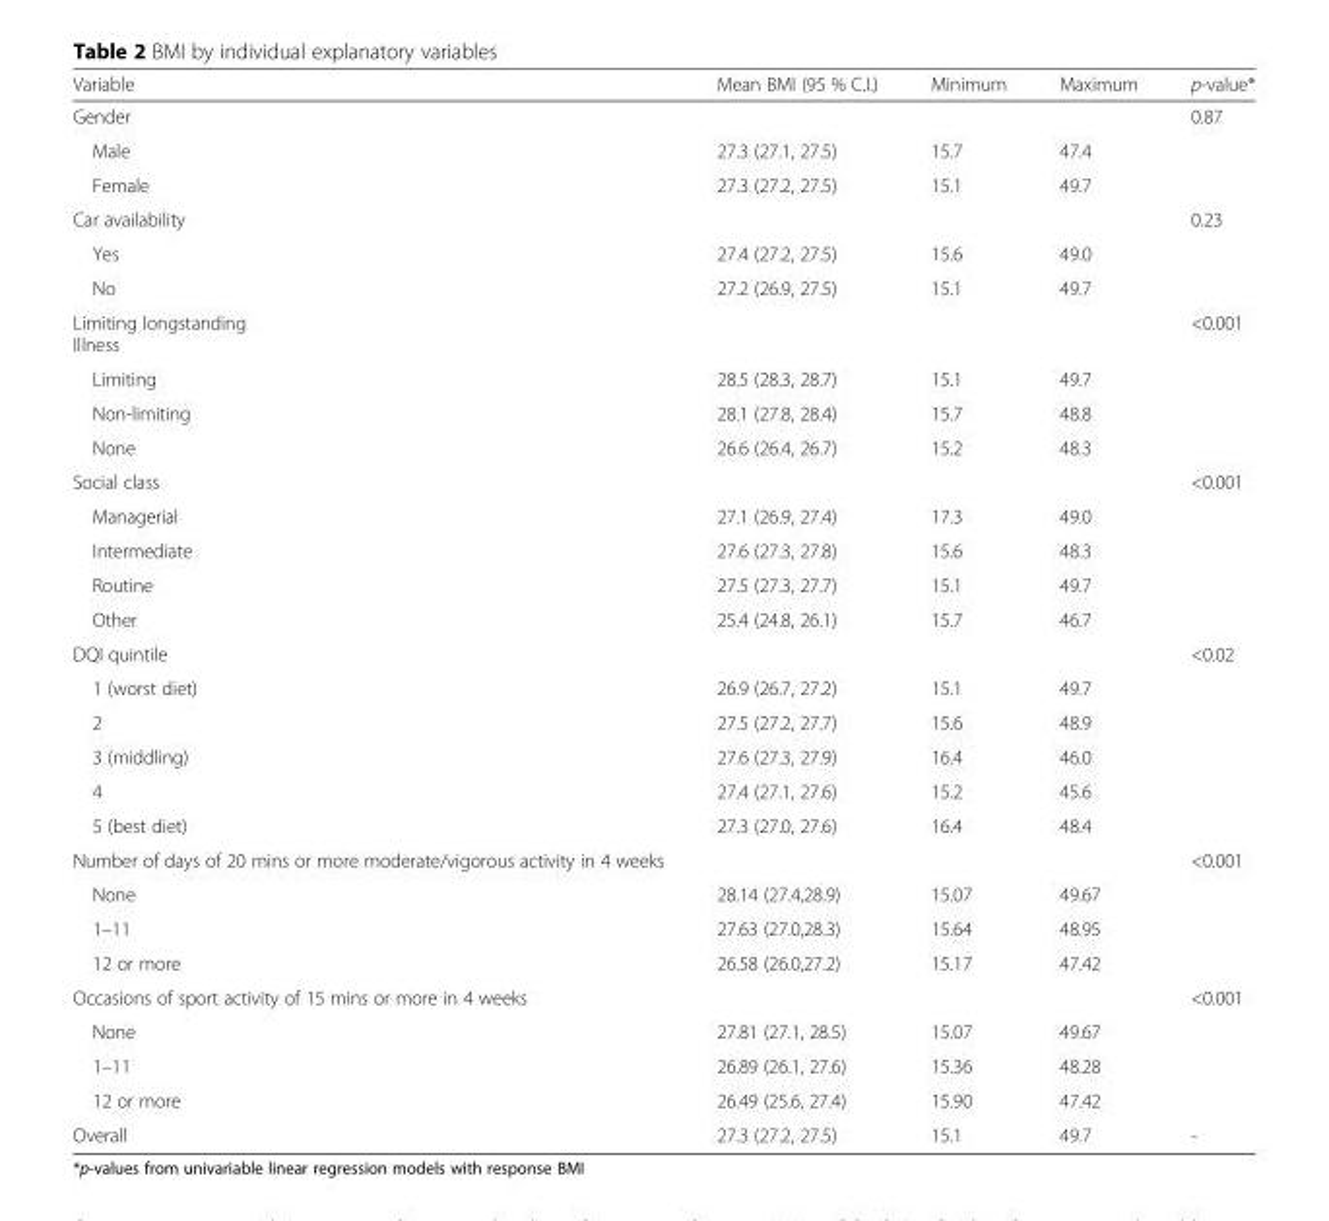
<table><thead><tr><td>Variable</td><td>Mean BMI (95 % C.I.)</td><td>Minimum</td><td>Maximum</td><td>p-value*</td></tr></thead><tbody><tr><td>Gender</td><td></td><td></td><td></td><td>0.87</td></tr><tr><td>Male</td><td>27.3 (27.1, 27.5)</td><td>15.7</td><td>47.4</td><td></td></tr><tr><td>Female</td><td>27.3 (27.2, 27.5)</td><td>15.1</td><td>49.7</td><td></td></tr><tr><td>Car availability</td><td></td><td></td><td></td><td>0.23</td></tr><tr><td>Yes</td><td>27.4 (27.2, 27.5)</td><td>15.6</td><td>49.0</td><td></td></tr><tr><td>No</td><td>27.2 (26.9, 27.5)</td><td>15.1</td><td>49.7</td><td></td></tr><tr><td>Limiting longstanding Illness</td><td></td><td></td><td></td><td>&lt;0.001</td></tr><tr><td>Limiting</td><td>28.5 (28.3, 28.7)</td><td>15.1</td><td>49.7</td><td></td></tr><tr><td>Non-limiting</td><td>28.1 (27.8, 28.4)</td><td>15.7</td><td>48.8</td><td></td></tr><tr><td>None</td><td>26.6 (26.4, 26.7)</td><td>15.2</td><td>48.3</td><td></td></tr><tr><td>Social class</td><td></td><td></td><td></td><td>&lt;0.001</td></tr><tr><td>Managerial</td><td>27.1 (26.9, 27.4)</td><td>17.3</td><td>49.0</td><td></td></tr><tr><td>Intermediate</td><td>27.6 (27.3, 27.8)</td><td>15.6</td><td>48.3</td><td></td></tr><tr><td>Routine</td><td>27.5 (27.3, 27.7)</td><td>15.1</td><td>49.7</td><td></td></tr><tr><td>Other</td><td>25.4 (24.8, 26.1)</td><td>15.7</td><td>46.7</td><td></td></tr><tr><td>DQI quintile</td><td></td><td></td><td></td><td>&lt;0.02</td></tr><tr><td>1 (worst diet)</td><td>26.9 (26.7, 27.2)</td><td>15.1</td><td>49.7</td><td></td></tr><tr><td>2</td><td>27.5 (27.2, 27.7)</td><td>15.6</td><td>48.9</td><td></td></tr><tr><td>3 (middling)</td><td>27.6 (27.3, 27.9)</td><td>16.4</td><td>46.0</td><td></td></tr><tr><td>4</td><td>27.4 (27.1, 27.6)</td><td>15.2</td><td>45.6</td><td></td></tr><tr><td>5 (best diet)</td><td>27.3 (27.0, 27.6)</td><td>16.4</td><td>48.4</td><td></td></tr><tr><td>Number of days of 20 mins or more moderate/vigorous activity in 4 weeks</td><td></td><td></td><td></td><td>&lt;0.001</td></tr><tr><td>None</td><td>28.14 (27.4,28.9)</td><td>15.07</td><td>49.67</td><td></td></tr><tr><td>1–11</td><td>27.63 (27.0,28.3)</td><td>15.64</td><td>48.95</td><td></td></tr><tr><td>12 or more</td><td>26.58 (26.0,27.2)</td><td>15.17</td><td>47.42</td><td></td></tr><tr><td>Occasions of sport activity of 15 mins or more in 4 weeks</td><td></td><td></td><td></td><td>&lt;0.001</td></tr><tr><td>None</td><td>27.81 (27.1, 28.5)</td><td>15.07</td><td>49.67</td><td></td></tr><tr><td>1–11</td><td>26.89 (26.1, 27.6)</td><td>15.36</td><td>48.28</td><td></td></tr><tr><td>12 or more</td><td>26.49 (25.6, 27.4)</td><td>15.90</td><td>47.42</td><td></td></tr><tr><td>Overall</td><td>27.3 (27.2, 27.5)</td><td>15.1</td><td>49.7</td><td>-</td></tr></tbody></table>